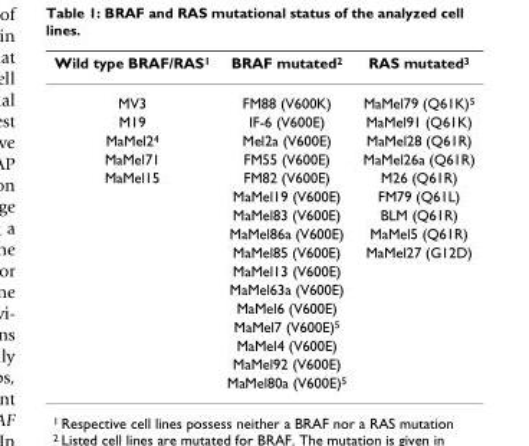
<table><thead><tr><td>Wild type BRAF/RAS<sup>1</sup></td><td>BRAF mutated<sup>2</sup></td><td>RAS mutated<sup>3</sup></td></tr></thead><tbody><tr><td>MV3</td><td>FM88 (V600K)</td><td>MaMel79 (Q61K)<sup>5</sup></td></tr><tr><td>M19</td><td>IF-6 (V600E)</td><td>MaMel91 (Q61K)</td></tr><tr><td>MaMel2<sup>4</sup></td><td>Mel2a (V600E)</td><td>MaMel28 (Q61R)</td></tr><tr><td>MaMel71</td><td>FM55 (V600E)</td><td>MaMel26a (Q61R)</td></tr><tr><td rowspan="12">MaMel15</td><td>FM82 (V600E)</td><td>M26 (Q61R)</td></tr><tr><td>MaMel19 (V600E)</td><td>FM79 (Q61L)</td></tr><tr><td>MaMel83 (V600E)</td><td>BLM (Q61R)</td></tr><tr><td>MaMel86a (V600E)</td><td>MaMel5 (Q61R)</td></tr><tr><td>MaMel85 (V600E)</td><td>MaMel27 (G12D)</td></tr><tr><td>MaMel13 (V600E)</td><td></td></tr><tr><td>MaMel63a (V600E)</td><td></td></tr><tr><td>MaMel6 (V600E)</td><td></td></tr><tr><td>MaMel7 (V600E)<sup>5</sup></td><td></td></tr><tr><td>MaMel4 (V600E)</td><td></td></tr><tr><td>MaMel92 (V600E)</td><td></td></tr><tr><td>MaMel80a (V600E)<sup>5</sup></td><td></td></tr></tbody></table>